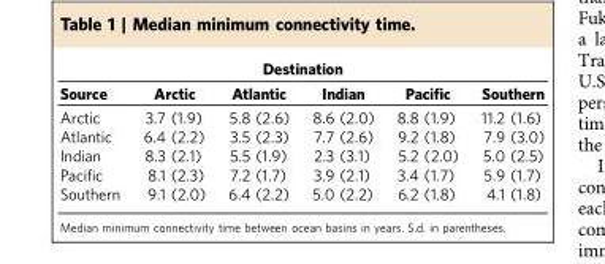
<table><thead><tr><td colspan="6">Destination</td></tr><tr><td>Source</td><td>Arctic</td><td>Atlantic</td><td>Indian</td><td>Pacific</td><td>Southern</td></tr></thead><tbody><tr><td>Arctic</td><td>3.7 (1.9)</td><td>5.8 (2.6)</td><td>8.6 (2.0)</td><td>8.8 (1.9)</td><td>11.2 (1.6)</td></tr><tr><td>Atlantic</td><td>6.4 (2.2)</td><td>3.5 (2.3)</td><td>7.7 (2.6)</td><td>9.2 (1.8)</td><td>7.9 (3.0)</td></tr><tr><td>Indian</td><td>8.3 (2.1)</td><td>5.5 (1.9)</td><td>2.3 (3.1)</td><td>5.2 (2.0)</td><td>5.0 (2.5)</td></tr><tr><td>Pacific</td><td>8.1 (2.3)</td><td>7.2 (1.7)</td><td>3.9 (2.1)</td><td>3.4 (1.7)</td><td>5.9 (1.7)</td></tr><tr><td>Southern</td><td>9.1 (2.0)</td><td>6.4 (2.2)</td><td>5.0 (2.2)</td><td>6.2 (1.8)</td><td>4.1 (1.8)</td></tr></tbody></table>